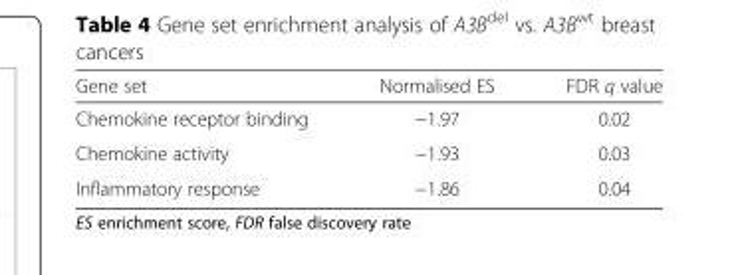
<table><thead><tr><td>Gene set</td><td>Normalised ES</td><td>FDR q value</td></tr></thead><tbody><tr><td>Chemokine receptor binding</td><td>−1.97</td><td>0.02</td></tr><tr><td>Chemokine activity</td><td>−1.93</td><td>0.03</td></tr><tr><td>Inflammatory response</td><td>−1.86</td><td>0.04</td></tr></tbody></table>